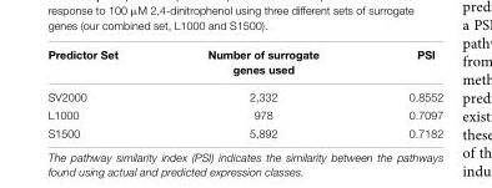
<table><thead><tr><td>Predictor Set</td><td>Number of surrogate genes used</td><td>PSI</td></tr></thead><tbody><tr><td>SV2000</td><td>2,332</td><td>0.8552</td></tr><tr><td>L1000</td><td>978</td><td>0.7097</td></tr><tr><td>S1500</td><td>5,892</td><td>0.7182</td></tr></tbody></table>